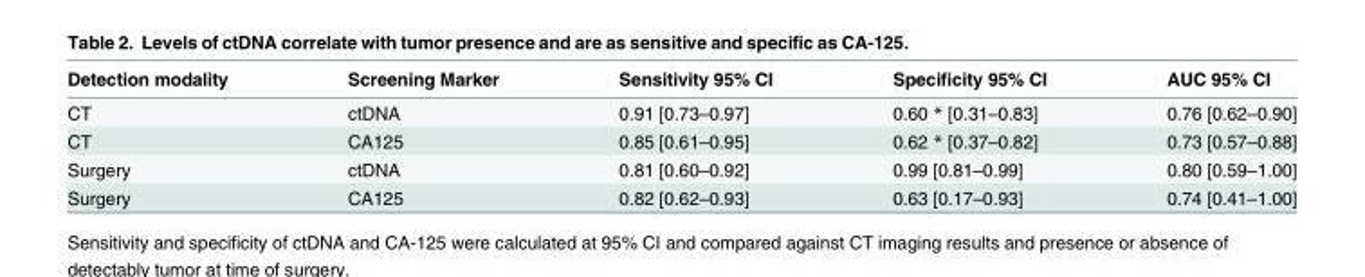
<table><thead><tr><td>Detection modality</td><td>Screening Marker</td><td>Sensitivity 95% CI</td><td>Specificity 95% CI</td><td>AUC 95% CI</td></tr></thead><tbody><tr><td>CT</td><td>ctDNA</td><td>0.91 [0.73–0.97]</td><td>0.60 * [0.31–0.83]</td><td>0.76 [0.62–0.90]</td></tr><tr><td>CT</td><td>CA125</td><td>0.85 [0.61–0.95]</td><td>0.62 * [0.37–0.82]</td><td>0.73 [0.57–0.88]</td></tr><tr><td>Surgery</td><td>ctDNA</td><td>0.81 [0.60–0.92]</td><td>0.99 [0.81–0.99]</td><td>0.80 [0.59–1.00]</td></tr><tr><td>Surgery</td><td>CA125</td><td>0.82 [0.62–0.93]</td><td>0.63 [0.17–0.93]</td><td>0.74 [0.41–1.00]</td></tr></tbody></table>